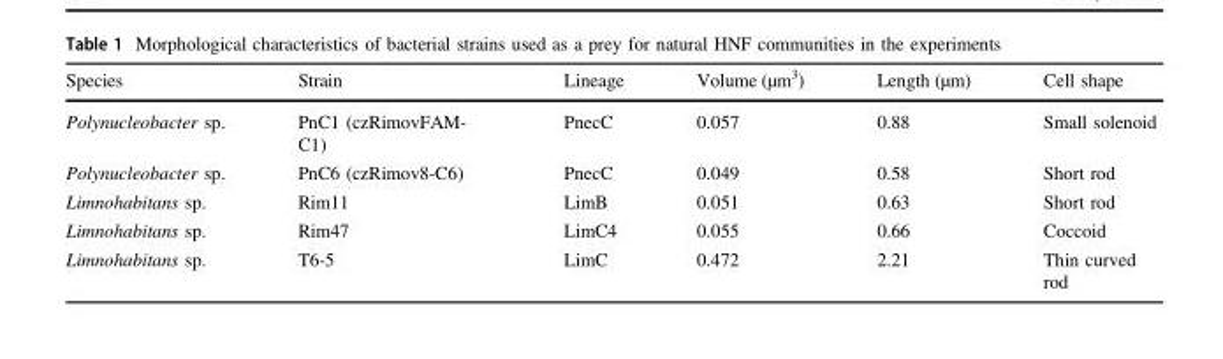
<table><thead><tr><td>Species</td><td>Strain</td><td>Lineage</td><td>Volume (µm<sup>3</sup>)</td><td>Length (µm)</td><td>Cell shape</td></tr></thead><tbody><tr><td>Polynucleobacter sp.</td><td>PnC1 (czRimovFAM- C1)</td><td>PnecC</td><td>0.057</td><td>0.88</td><td>Small solenoid</td></tr><tr><td>Polynucleobacter sp.</td><td>PnC6 (czRimov8-C6)</td><td>PnecC</td><td>0.049</td><td>0.58</td><td>Short rod</td></tr><tr><td>Limnohabitans sp.</td><td>Rim11</td><td>LimB</td><td>0.051</td><td>0.63</td><td>Short rod</td></tr><tr><td>Limnohabitans sp.</td><td>Rim47</td><td>LimC4</td><td>0.055</td><td>0.66</td><td>Coccoid</td></tr><tr><td>Limnohabitans sp.</td><td>T6-5</td><td>LimC</td><td>0.472</td><td>2.21</td><td>Thin curved rod</td></tr></tbody></table>